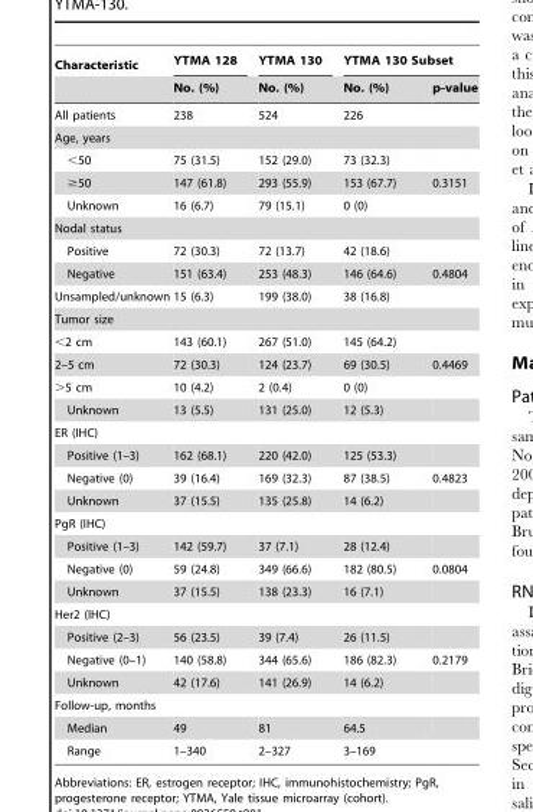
<table><thead><tr><td rowspan="2">Characteristic</td><td rowspan="2">YTMA 128 No. (%)</td><td rowspan="2">YTMA 130 No. (%)</td><td colspan="2">YTMA 130 Subset</td></tr><tr><td>No. (%)</td><td>p-value</td></tr></thead><tbody><tr><td>All patients</td><td>238</td><td>524</td><td>226</td><td></td></tr><tr><td colspan="5">Age, years</td></tr><tr><td>&lt;50</td><td>75 (31.5)</td><td>152 (29.0)</td><td>73 (32.3)</td><td></td></tr><tr><td>≥50</td><td>147 (61.8)</td><td>293 (55.9)</td><td>153 (67.7)</td><td>0.3151</td></tr><tr><td>Unknown</td><td>16 (6.7)</td><td>79 (15.1)</td><td>0 (0)</td><td></td></tr><tr><td colspan="5">Nodal status</td></tr><tr><td>Positive</td><td>72 (30.3)</td><td>72 (13.7)</td><td>42 (18.6)</td><td></td></tr><tr><td>Negative</td><td>151 (63.4)</td><td>253 (48.3)</td><td>146 (64.6)</td><td>0.4804</td></tr><tr><td>Unsampled/unknown</td><td>15 (6.3)</td><td>199 (38.0)</td><td>38 (16.8)</td><td></td></tr><tr><td colspan="5">Tumor size</td></tr><tr><td>&lt;2 cm</td><td>143 (60.1)</td><td>267 (51.0)</td><td>145 (64.2)</td><td></td></tr><tr><td>2–5 cm</td><td>72 (30.3)</td><td>124 (23.7)</td><td>69 (30.5)</td><td>0.4469</td></tr><tr><td>&gt;5 cm</td><td>10 (4.2)</td><td>2 (0.4)</td><td>0 (0)</td><td></td></tr><tr><td>Unknown</td><td>13 (5.5)</td><td>131 (25.0)</td><td>12 (5.3)</td><td></td></tr><tr><td colspan="5">ER (IHC)</td></tr><tr><td>Positive (1–3)</td><td>162 (68.1)</td><td>220 (42.0)</td><td>125 (53.3)</td><td></td></tr><tr><td>Negative (0)</td><td>39 (16.4)</td><td>169 (32.3)</td><td>87 (38.5)</td><td>0.4823</td></tr><tr><td>Unknown</td><td>37 (15.5)</td><td>135 (25.8)</td><td>14 (6.2)</td><td></td></tr><tr><td colspan="5">PgR (IHC)</td></tr><tr><td>Positive (1–3)</td><td>142 (59.7)</td><td>37 (7.1)</td><td>28 (12.4)</td><td></td></tr><tr><td>Negative (0)</td><td>59 (24.8)</td><td>349 (66.6)</td><td>182 (80.5)</td><td>0.0804</td></tr><tr><td>Unknown</td><td>37 (15.5)</td><td>138 (23.3)</td><td>16 (7.1)</td><td></td></tr><tr><td colspan="5">Her2 (IHC)</td></tr><tr><td>Positive (2–3)</td><td>56 (23.5)</td><td>39 (7.4)</td><td>26 (11.5)</td><td></td></tr><tr><td>Negative (0–1)</td><td>140 (58.8)</td><td>344 (65.6)</td><td>186 (82.3)</td><td>0.2179</td></tr><tr><td>Unknown</td><td>42 (17.6)</td><td>141 (26.9)</td><td>14 (6.2)</td><td></td></tr><tr><td colspan="5">Follow-up, months</td></tr><tr><td>Median</td><td>49</td><td>81</td><td>64.5</td><td></td></tr><tr><td>Range</td><td>1–340</td><td>2–327</td><td>3–169</td><td></td></tr></tbody></table>